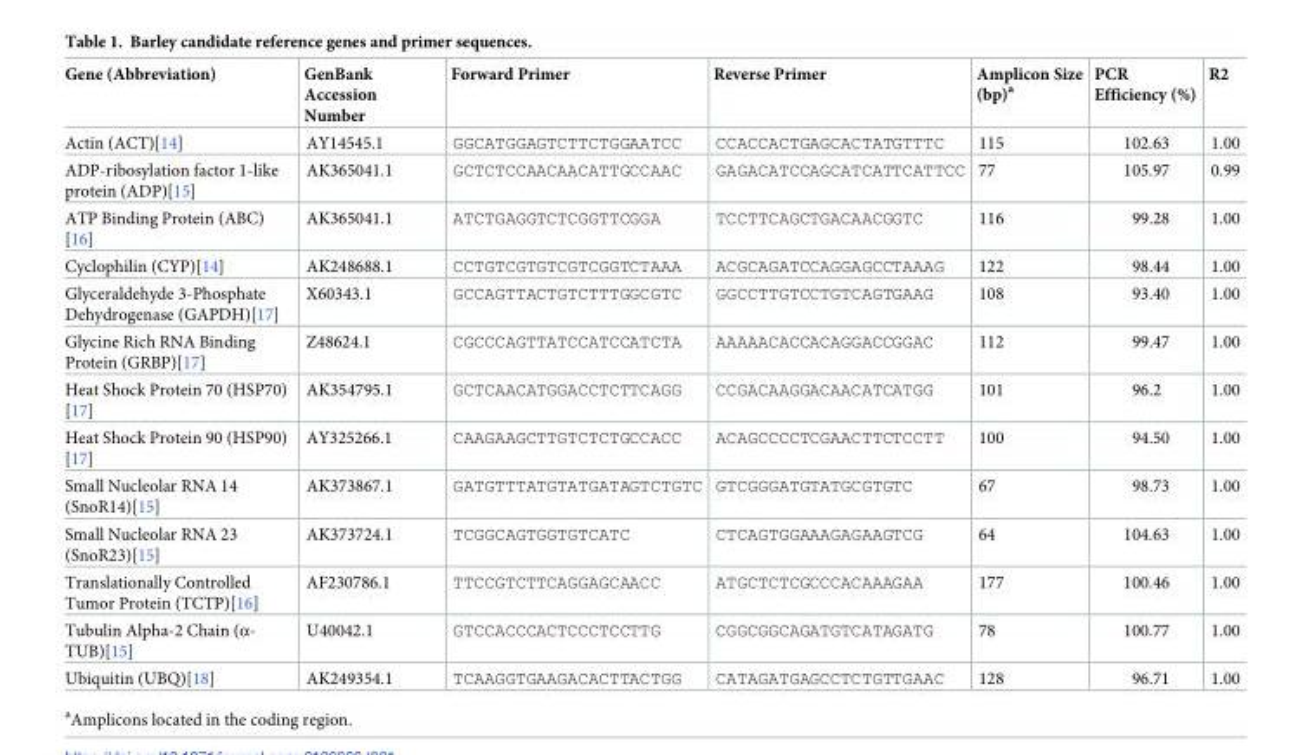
<table><thead><tr><td>Gene (Abbreviation)</td><td>GenBank Accession Number</td><td>Forward Primer</td><td>Reverse Primer</td><td>Amplicon Size (bp)<sup>a</sup></td><td>PCR Efficiency (%)</td><td>R2</td></tr></thead><tbody><tr><td>Actin (ACT)[14]</td><td>AY14545.1</td><td>GGCATGGAGTCTTCTGGAATCC</td><td>CCACCACTGAGCACTATGTTTC</td><td>115</td><td>102.63</td><td>1.00</td></tr><tr><td>ADP-ribosylation factor 1-like protein (ADP)[15]</td><td>AK365041.1</td><td>GCTCTCCAACAACATTGCCAAC</td><td>GAGACATCCAGCATCATTCATTCC</td><td>77</td><td>105.97</td><td>0.99</td></tr><tr><td>ATP Binding Protein (ABC) [16]</td><td>AK365041.1</td><td>ATCTGAGGTCTCGGTTCGGA</td><td>TCCTTCAGCTGACAACGGTC</td><td>116</td><td>99.28</td><td>1.00</td></tr><tr><td>Cyclophilin (CYP)[14]</td><td>AK248688.1</td><td>CCTGTCGTGTCGTCGGTCTAAA</td><td>ACGCAGATCCAGGAGCCTAAAG</td><td>122</td><td>98.44</td><td>1.00</td></tr><tr><td>Glyceraldehyde 3-Phosphate Dehydrogenase (GAPDH)[17]</td><td>X60343.1</td><td>GCCAGTTACTGTCTTTGGCGTC</td><td>GGCCTTGTCCTGTCAGTGAAG</td><td>108</td><td>93.40</td><td>1.00</td></tr><tr><td>Glycine Rich RNA Binding Protein (GRBP)[17]</td><td>Z48624.1</td><td>CGCCCAGTTATCCATCCATCTA</td><td>AAAAACACCACAGGACCGGAC</td><td>112</td><td>99.47</td><td>1.00</td></tr><tr><td>Heat Shock Protein 70 (HSP70) [17]</td><td>AK354795.1</td><td>GCTCAACATGGACCTCTTCAGG</td><td>CCGACAAGGACAACATCATGG</td><td>101</td><td>96.2</td><td>1.00</td></tr><tr><td>Heat Shock Protein 90 (HSP90) [17]</td><td>AY325266.1</td><td>CAAGAAGCTTGTCTCTGCCACC</td><td>ACAGCCCCTCGAACTTCTCCTT</td><td>100</td><td>94.50</td><td>1.00</td></tr><tr><td>Small Nucleolar RNA 14 (SnoR14)[15]</td><td>AK373867.1</td><td>GATGTTTATGTATGATAGTCTGTC</td><td>GTCGGGATGTATGCGTGTC</td><td>67</td><td>98.73</td><td>1.00</td></tr><tr><td>Small Nucleolar RNA 23 (SnoR23)[15]</td><td>AK373724.1</td><td>TCGGCAGTGGTGTCATC</td><td>CTCAGTGGAAAGAGAAGTCG</td><td>64</td><td>104.63</td><td>1.00</td></tr><tr><td>Translationally Controlled Tumor Protein (TCTP)[16]</td><td>AF230786.1</td><td>TTCCGTCTTCAGGAGCAACC</td><td>ATGCTCTCGCCCACAAAGAA</td><td>177</td><td>100.46</td><td>1.00</td></tr><tr><td>Tubulin Alpha-2 Chain (α- TUB)[15]</td><td>U40042.1</td><td>GTCCACCCACTCCCTCCTTG</td><td>CGGCGGCAGATGTCATAGATG</td><td>78</td><td>100.77</td><td>1.00</td></tr><tr><td>Ubiquitin (UBQ)[18]</td><td>AK249354.1</td><td>TCAAGGTGAAGACACTTACTGG</td><td>CATAGATGAGCCTCTGTTGAAC</td><td>128</td><td>96.71</td><td>1.00</td></tr></tbody></table>